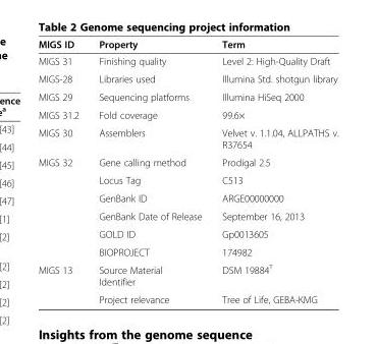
<table><thead><tr><td>MIGS ID</td><td>Property</td><td>Term</td></tr></thead><tbody><tr><td>MIGS 31</td><td>Finishing quality</td><td>Level 2: High-Quality Draft</td></tr><tr><td>MIGS-28</td><td>Libraries used</td><td>Illumina Std. shotgun library</td></tr><tr><td>MIGS 29</td><td>Sequencing platforms</td><td>Illumina HiSeq 2000</td></tr><tr><td>MIGS 31.2</td><td>Fold coverage</td><td>99.6×</td></tr><tr><td>MIGS 30</td><td>Assemblers</td><td>Velvet v. 1.1.04, ALLPATHS v. R37654</td></tr><tr><td rowspan="6">MIGS 32</td><td>Gene calling method</td><td>Prodigal 2.5</td></tr><tr><td>Locus Tag</td><td>C513</td></tr><tr><td>GenBank ID</td><td>ARGE00000000</td></tr><tr><td>GenBank Date of Release</td><td>September 16, 2013</td></tr><tr><td>GOLD ID</td><td>Gp0013605</td></tr><tr><td>BIOPROJECT</td><td>174982</td></tr><tr><td rowspan="2">MIGS 13</td><td>Source Material Identifier</td><td>DSM 19884<sup>T</sup></td></tr><tr><td>Project relevance</td><td>Tree of Life, GEBA-KMG</td></tr></tbody></table>